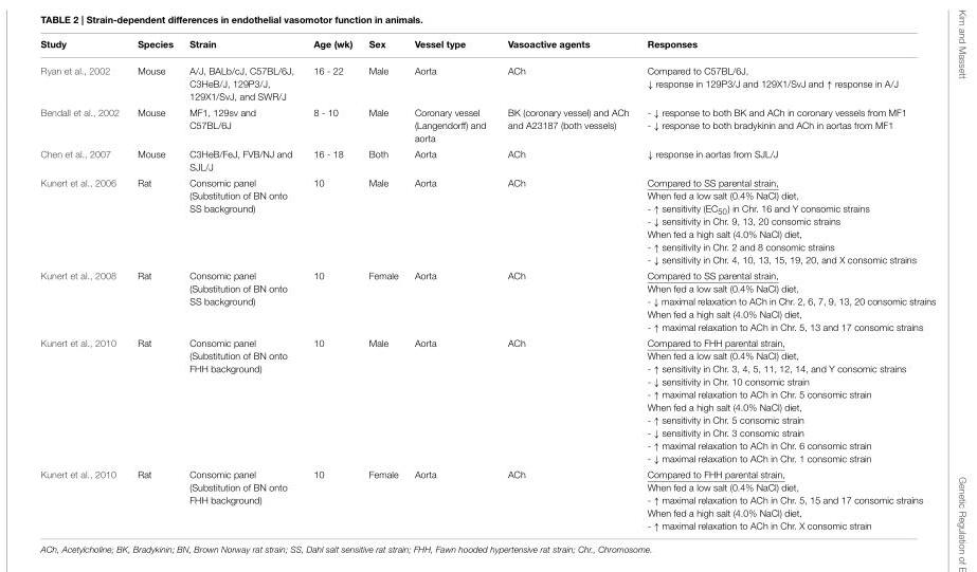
<table><thead><tr><td>Study</td><td>Species</td><td>Strain</td><td>Age (wk)</td><td>Sex</td><td>Vessel type</td><td>Vasoactive agents</td><td>Responses</td></tr></thead><tbody><tr><td>Ryan et al., 2002</td><td>Mouse</td><td>A/J, BALb/cJ, C57BL/6J, C3HeB/J, 129P3/J, 129X1/SvJ, and SWR/J</td><td>16 - 22</td><td>Male</td><td>Aorta</td><td>ACh</td><td>Compared to C57BL/6J, ↓ response in 129P3/J and 129X1/SvJ and ↑ response in A/J</td></tr><tr><td>Bendall et al., 2002</td><td>Mouse</td><td>MF1, 129sv and C57BL/6J</td><td>8 - 10</td><td>Male</td><td>Coronary vessel (Langendorff) and aorta</td><td>BK (coronary vessel) and ACh and A23187 (both vessels)</td><td>- ↓ response to both BK and ACh in coronary vessels from MF1 - ↓ response to both bradykinin and ACh in aortas from MF1</td></tr><tr><td>Chen et al., 2007</td><td>Mouse</td><td>C3HeB/FeJ, FVB/NJ and SJL/J</td><td>16 - 18</td><td>Both</td><td>Aorta</td><td>ACh</td><td>↓ response in aortas from SJL/J</td></tr><tr><td>Kunert et al., 2006</td><td>Rat</td><td>Consomic panel (Substitution of BN onto SS background)</td><td>10</td><td>Male</td><td>Aorta</td><td>ACh</td><td>Compared to SS parental strain, When fed a low salt (0.4% NaCl) diet, - ↑ sensitivity (EC<sub>50</sub>) in Chr. 16 and Y consomic strains - ↓ sensitivity in Chr. 9, 13, 20 consomic strains When fed a high salt (4.0% NaCl) diet, - ↑ sensitivity in Chr. 2 and 8 consomic strains - ↓ sensitivity in Chr. 4, 10, 13, 15, 19, 20, and X consomic strains</td></tr><tr><td>Kunert et al., 2008</td><td>Rat</td><td>Consomic panel (Substitution of BN onto SS background)</td><td>10</td><td>Female</td><td>Aorta</td><td>ACh</td><td>Compared to SS parental strain, When fed a low salt (0.4% NaCl) diet, - ↓ maximal relaxation to ACh in Chr. 2, 6, 7, 9, 13, 20 consomic strains When fed a high salt (4.0% NaCl) diet, - ↑ maximal relaxation to ACh in Chr. 5, 13 and 17 consomic strains</td></tr><tr><td>Kunert et al., 2010</td><td>Rat</td><td>Consomic panel (Substitution of BN onto FHH background)</td><td>10</td><td>Male</td><td>Aorta</td><td>ACh</td><td>Compared to FHH parental strain, When fed a low salt (0.4% NaCl) diet, - ↑ sensitivity in Chr. 3, 4, 5, 11, 12, 14, and Y consomic strains - ↓ sensitivity in Chr. 10 consomic strain - ↑ maximal relaxation to ACh in Chr. 5 consomic strain When fed a high salt (4.0% NaCl) diet, - ↑ sensitivity in Chr. 5 consomic strain - ↓ sensitivity in Chr. 3 consomic strain - ↑ maximal relaxation to ACh in Chr. 6 consomic strain - ↓ maximal relaxation to ACh in Chr. 1 consomic strain</td></tr><tr><td>Kunert et al., 2010</td><td>Rat</td><td>Consomic panel (Substitution of BN onto FHH background)</td><td>10</td><td>Female</td><td>Aorta</td><td>ACh</td><td>Compared to FHH parental strain, When fed a low salt (0.4% NaCl) diet, - ↑ maximal relaxation to ACh in Chr. 5, 15 and 17 consomic strains When fed a high salt (4.0% NaCl) diet, - ↑ maximal relaxation to ACh in Chr. X consomic strain</td></tr></tbody></table>